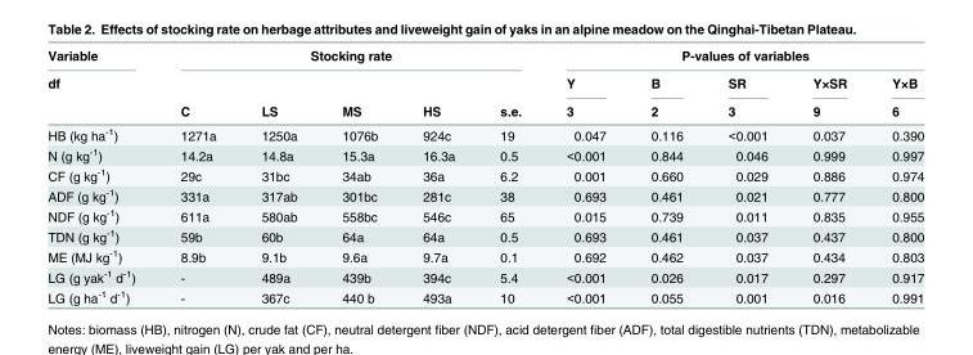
<table><thead><tr><td rowspan="3">Variable df</td><td colspan="5">Stocking rate</td><td colspan="5">P-values of variables</td></tr><tr><td rowspan="2">C</td><td rowspan="2">LS</td><td rowspan="2">MS</td><td rowspan="2">HS</td><td rowspan="2">s.e.</td><td rowspan="2">Y 3</td><td rowspan="2">B 2</td><td rowspan="2">SR 3</td><td rowspan="2">Y×SR 9</td><td rowspan="2">Y×B 6</td></tr><tr></tr></thead><tbody><tr><td>HB (kg ha<sup>-1</sup>)</td><td>1271a</td><td>1250a</td><td>1076b</td><td>924c</td><td>19</td><td>0.047</td><td>0.116</td><td>&lt;0.001</td><td>0.037</td><td>0.390</td></tr><tr><td>N (g kg<sup>-1</sup>)</td><td>14.2a</td><td>14.8a</td><td>15.3a</td><td>16.3a</td><td>0.5</td><td>&lt;0.001</td><td>0.844</td><td>0.046</td><td>0.999</td><td>0.997</td></tr><tr><td>CF (g kg<sup>-1</sup>)</td><td>29c</td><td>31bc</td><td>34ab</td><td>36a</td><td>6.2</td><td>0.001</td><td>0.660</td><td>0.029</td><td>0.886</td><td>0.974</td></tr><tr><td>ADF (g kg<sup>-1</sup>)</td><td>331a</td><td>317ab</td><td>301bc</td><td>281c</td><td>38</td><td>0.693</td><td>0.461</td><td>0.021</td><td>0.777</td><td>0.800</td></tr><tr><td>NDF (g kg<sup>-1</sup>)</td><td>611a</td><td>580ab</td><td>558bc</td><td>546c</td><td>65</td><td>0.015</td><td>0.739</td><td>0.011</td><td>0.835</td><td>0.955</td></tr><tr><td>TDN (g kg<sup>-1</sup>)</td><td>59b</td><td>60b</td><td>64a</td><td>64a</td><td>0.5</td><td>0.693</td><td>0.461</td><td>0.037</td><td>0.437</td><td>0.800</td></tr><tr><td>ME (MJ kg<sup>-1</sup>)</td><td>8.9b</td><td>9.1b</td><td>9.6a</td><td>9.7a</td><td>0.1</td><td>0.692</td><td>0.462</td><td>0.037</td><td>0.434</td><td>0.803</td></tr><tr><td>LG (g yak<sup>-1</sup> d<sup>-1</sup>)</td><td>-</td><td>489a</td><td>439b</td><td>394c</td><td>5.4</td><td>&lt;0.001</td><td>0.026</td><td>0.017</td><td>0.297</td><td>0.917</td></tr><tr><td>LG (g ha<sup>-1</sup> d<sup>-1</sup>)</td><td>-</td><td>367c</td><td>440 b</td><td>493a</td><td>10</td><td>&lt;0.001</td><td>0.055</td><td>0.001</td><td>0.016</td><td>0.991</td></tr></tbody></table>